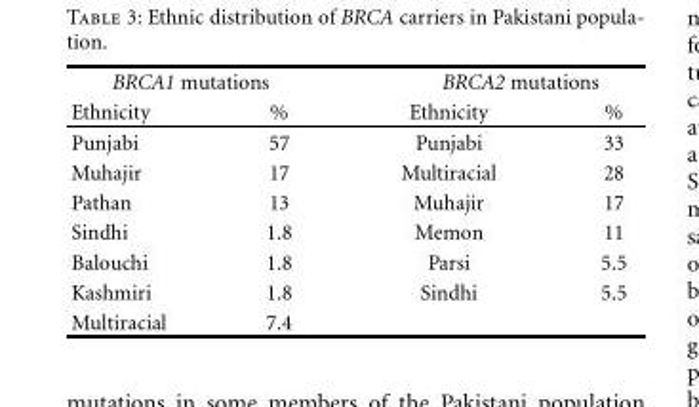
<table><thead><tr><td colspan="2">BRCA1 mutations</td><td colspan="2">BRCA2 mutations</td></tr><tr><td>Ethnicity</td><td>%</td><td>Ethnicity</td><td>%</td></tr></thead><tbody><tr><td>Punjabi</td><td>57</td><td>Punjabi</td><td>33</td></tr><tr><td>Muhajir</td><td>17</td><td>Multiracial</td><td>28</td></tr><tr><td>Pathan</td><td>13</td><td>Muhajir</td><td>17</td></tr><tr><td>Sindhi</td><td>1.8</td><td>Memon</td><td>11</td></tr><tr><td>Balouchi</td><td>1.8</td><td>Parsi</td><td>5.5</td></tr><tr><td>Kashmiri</td><td>1.8</td><td>Sindhi</td><td>5.5</td></tr><tr><td>Multiracial</td><td>7.4</td><td></td><td></td></tr></tbody></table>